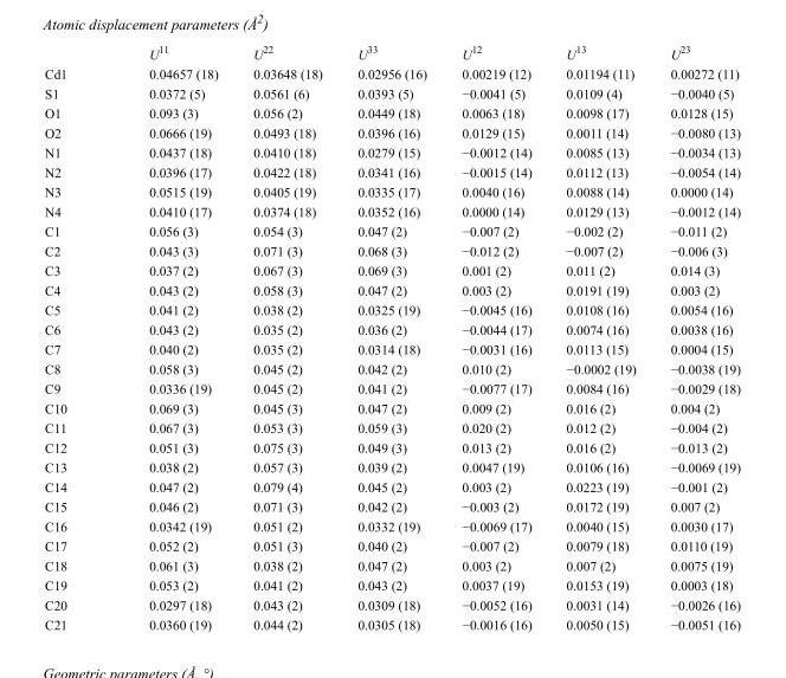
<table><thead><tr><td></td><td>U<sup>11</sup></td><td>U<sup>22</sup></td><td>U<sup>33</sup></td><td>U<sup>12</sup></td><td>U<sup>13</sup></td><td>U<sup>23</sup></td></tr></thead><tbody><tr><td>Cd1</td><td>0.04657 (18)</td><td>0.03648 (18)</td><td>0.02956 (16)</td><td>0.00219 (12)</td><td>0.01194 (11)</td><td>0.00272 (11)</td></tr><tr><td>S1</td><td>0.0372 (5)</td><td>0.0561 (6)</td><td>0.0393 (5)</td><td>−0.0041 (5)</td><td>0.0109 (4)</td><td>−0.0040 (5)</td></tr><tr><td>O1</td><td>0.093 (3)</td><td>0.056 (2)</td><td>0.0449 (18)</td><td>0.0063 (18)</td><td>0.0098 (17)</td><td>0.0128 (15)</td></tr><tr><td>O2</td><td>0.0666 (19)</td><td>0.0493 (18)</td><td>0.0396 (16)</td><td>0.0129 (15)</td><td>0.0011 (14)</td><td>−0.0080 (13)</td></tr><tr><td>N1</td><td>0.0437 (18)</td><td>0.0410 (18)</td><td>0.0279 (15)</td><td>−0.0012 (14)</td><td>0.0085 (13)</td><td>−0.0034 (13)</td></tr><tr><td>N2</td><td>0.0396 (17)</td><td>0.0422 (18)</td><td>0.0341 (16)</td><td>−0.0015 (14)</td><td>0.0112 (13)</td><td>−0.0054 (14)</td></tr><tr><td>N3</td><td>0.0515 (19)</td><td>0.0405 (19)</td><td>0.0335 (17)</td><td>0.0040 (16)</td><td>0.0088 (14)</td><td>0.0000 (14)</td></tr><tr><td>N4</td><td>0.0410 (17)</td><td>0.0374 (18)</td><td>0.0352 (16)</td><td>0.0000 (14)</td><td>0.0129 (13)</td><td>−0.0012 (14)</td></tr><tr><td>C1</td><td>0.056 (3)</td><td>0.054 (3)</td><td>0.047 (2)</td><td>−0.007 (2)</td><td>−0.002 (2)</td><td>−0.011 (2)</td></tr><tr><td>C2</td><td>0.043 (3)</td><td>0.071 (3)</td><td>0.068 (3)</td><td>−0.012 (2)</td><td>−0.007 (2)</td><td>−0.006 (3)</td></tr><tr><td>C3</td><td>0.037 (2)</td><td>0.067 (3)</td><td>0.069 (3)</td><td>0.001 (2)</td><td>0.011 (2)</td><td>0.014 (3)</td></tr><tr><td>C4</td><td>0.043 (2)</td><td>0.058 (3)</td><td>0.047 (2)</td><td>0.003 (2)</td><td>0.0191 (19)</td><td>0.003 (2)</td></tr><tr><td>C5</td><td>0.041 (2)</td><td>0.038 (2)</td><td>0.0325 (19)</td><td>−0.0045 (16)</td><td>0.0108 (16)</td><td>0.0054 (16)</td></tr><tr><td>C6</td><td>0.043 (2)</td><td>0.035 (2)</td><td>0.036 (2)</td><td>−0.0044 (17)</td><td>0.0074 (16)</td><td>0.0038 (16)</td></tr><tr><td>C7</td><td>0.040 (2)</td><td>0.035 (2)</td><td>0.0314 (18)</td><td>−0.0031 (16)</td><td>0.0113 (15)</td><td>0.0004 (15)</td></tr><tr><td>C8</td><td>0.058 (3)</td><td>0.045 (2)</td><td>0.042 (2)</td><td>0.010 (2)</td><td>−0.0002 (19)</td><td>−0.0038 (19)</td></tr><tr><td>C9</td><td>0.0336 (19)</td><td>0.045 (2)</td><td>0.041 (2)</td><td>−0.0077 (17)</td><td>0.0084 (16)</td><td>−0.0029 (18)</td></tr><tr><td>C10</td><td>0.069 (3)</td><td>0.045 (3)</td><td>0.047 (2)</td><td>0.009 (2)</td><td>0.016 (2)</td><td>0.004 (2)</td></tr><tr><td>C11</td><td>0.067 (3)</td><td>0.053 (3)</td><td>0.059 (3)</td><td>0.020 (2)</td><td>0.012 (2)</td><td>−0.004 (2)</td></tr><tr><td>C12</td><td>0.051 (3)</td><td>0.075 (3)</td><td>0.049 (3)</td><td>0.013 (2)</td><td>0.016 (2)</td><td>−0.013 (2)</td></tr><tr><td>C13</td><td>0.038 (2)</td><td>0.057 (3)</td><td>0.039 (2)</td><td>0.0047 (19)</td><td>0.0106 (16)</td><td>−0.0069 (19)</td></tr><tr><td>C14</td><td>0.047 (2)</td><td>0.079 (4)</td><td>0.045 (2)</td><td>0.003 (2)</td><td>0.0223 (19)</td><td>−0.001 (2)</td></tr><tr><td>C15</td><td>0.046 (2)</td><td>0.071 (3)</td><td>0.042 (2)</td><td>−0.003 (2)</td><td>0.0172 (19)</td><td>0.007 (2)</td></tr><tr><td>C16</td><td>0.0342 (19)</td><td>0.051 (2)</td><td>0.0332 (19)</td><td>−0.0069 (17)</td><td>0.0040 (15)</td><td>0.0030 (17)</td></tr><tr><td>C17</td><td>0.052 (2)</td><td>0.051 (3)</td><td>0.040 (2)</td><td>−0.007 (2)</td><td>0.0079 (18)</td><td>0.0110 (19)</td></tr><tr><td>C18</td><td>0.061 (3)</td><td>0.038 (2)</td><td>0.047 (2)</td><td>0.003 (2)</td><td>0.007 (2)</td><td>0.0075 (19)</td></tr><tr><td>C19</td><td>0.053 (2)</td><td>0.041 (2)</td><td>0.043 (2)</td><td>0.0037 (19)</td><td>0.0153 (19)</td><td>0.0003 (18)</td></tr><tr><td>C20</td><td>0.0297 (18)</td><td>0.043 (2)</td><td>0.0309 (18)</td><td>−0.0052 (16)</td><td>0.0031 (14)</td><td>−0.0026 (16)</td></tr><tr><td>C21</td><td>0.0360 (19)</td><td>0.044 (2)</td><td>0.0305 (18)</td><td>−0.0016 (16)</td><td>0.0050 (15)</td><td>−0.0051 (16)</td></tr></tbody></table>